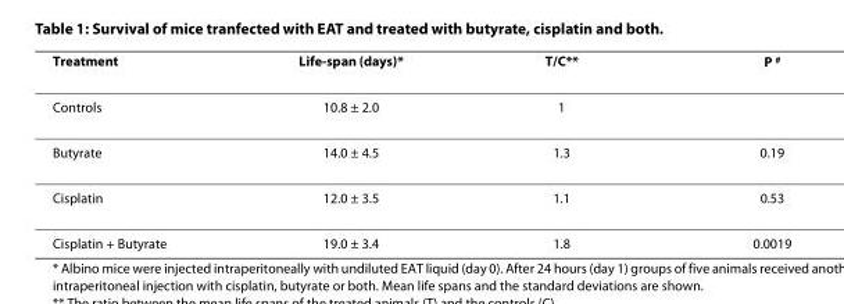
<table><thead><tr><td>Treatment</td><td>Life-span (days)*</td><td>T/C**</td><td>P <sup>#</sup></td></tr></thead><tbody><tr><td>Controls</td><td>10.8 ± 2.0</td><td>1</td><td></td></tr><tr><td>Butyrate</td><td>14.0 ± 4.5</td><td>1.3</td><td>0.19</td></tr><tr><td>Cisplatin</td><td>12.0 ± 3.5</td><td>1.1</td><td>0.53</td></tr><tr><td>Cisplatin + Butyrate</td><td>19.0 ± 3.4</td><td>1.8</td><td>0.0019</td></tr></tbody></table>